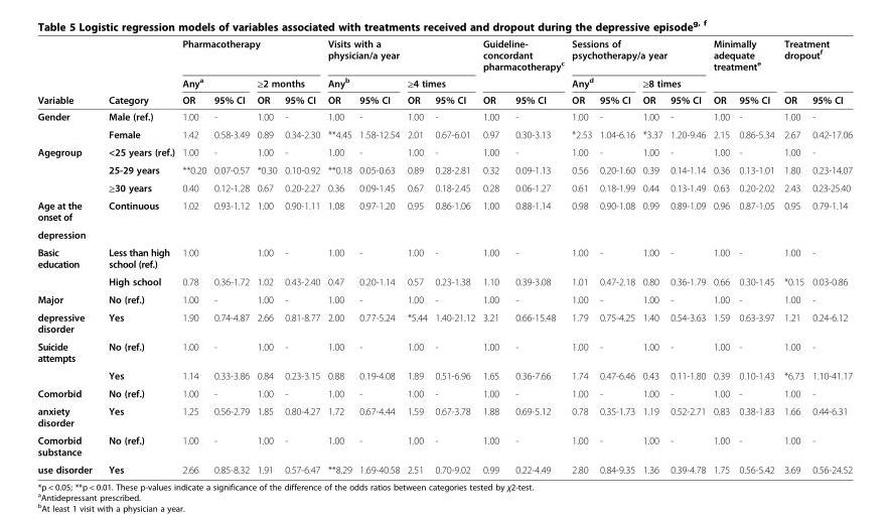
<table><thead><tr><td rowspan="3">Variable</td><td rowspan="3">Category</td><td colspan="4">Pharmacotherapy</td><td colspan="4">Visits with a physician/a year</td><td colspan="2">Guideline- concordant pharmacotherapy<sup>c</sup></td><td colspan="4">Sessions of psychotherapy/a year</td><td colspan="2">Minimally adequate treatment<sup>e</sup></td><td colspan="2">Treatment dropout<sup>f</sup></td></tr><tr><td colspan="2">Any<sup>a</sup></td><td colspan="2">≥2 months</td><td colspan="2">Any<sup>b</sup></td><td colspan="2">≥4 times</td><td rowspan="2">OR</td><td rowspan="2">95% CI</td><td colspan="2">Any<sup>d</sup></td><td colspan="2">≥8 times</td><td rowspan="2">OR</td><td rowspan="2">95% CI</td><td rowspan="2">OR</td><td rowspan="2">95% CI</td></tr><tr><td>OR</td><td>95% CI</td><td>OR</td><td>95% CI</td><td>OR</td><td>95% CI</td><td>OR</td><td>95% CI</td><td>OR</td><td>95% CI</td><td>OR</td><td>95% CI</td></tr></thead><tbody><tr><td rowspan="2">Gender</td><td>Male (ref.)</td><td>1.00</td><td>-</td><td>1.00</td><td>-</td><td>1.00</td><td>-</td><td>1.00</td><td>-</td><td>1.00</td><td>-</td><td>1.00</td><td>-</td><td>1.00</td><td>-</td><td>1.00</td><td>-</td><td>1.00</td><td>-</td></tr><tr><td>Female</td><td>1.42</td><td>0.58-3.49</td><td>0.89</td><td>0.34-2.30</td><td>**4.45</td><td>1.58-12.54</td><td>2.01</td><td>0.67-6.01</td><td>0.97</td><td>0.30-3.13</td><td>*2.53</td><td>1.04-6.16</td><td>*3.37</td><td>1.20-9.46</td><td>2.15</td><td>0.86-5.34</td><td>2.67</td><td>0.42-17.06</td></tr><tr><td rowspan="3">Agegroup</td><td>&lt;25 years (ref.)</td><td>1.00</td><td>-</td><td>1.00</td><td>-</td><td>1.00</td><td>-</td><td>1.00</td><td>-</td><td>1.00</td><td>-</td><td>1.00</td><td>-</td><td>1.00</td><td>-</td><td>1.00</td><td>-</td><td>1.00</td><td>-</td></tr><tr><td>25-29 years</td><td>**0.20</td><td>0.07-0.57</td><td>*0.30</td><td>0.10-0.92</td><td>**0.18</td><td>0.05-0.63</td><td>0.89</td><td>0.28-2.81</td><td>0.32</td><td>0.09-1.13</td><td>0.56</td><td>0.20-1.60</td><td>0.39</td><td>0.14-1.14</td><td>0.36</td><td>0.13-1.01</td><td>1.80</td><td>0.23-14.07</td></tr><tr><td>≥30 years</td><td>0.40</td><td>0.12-1.28</td><td>0.67</td><td>0.20-2.27</td><td>0.36</td><td>0.09-1.45</td><td>0.67</td><td>0.18-2.45</td><td>0.28</td><td>0.06-1.27</td><td>0.61</td><td>0.18-1.99</td><td>0.44</td><td>0.13-1.49</td><td>0.63</td><td>0.20-2.02</td><td>2.43</td><td>0.23-25.40</td></tr><tr><td>Age at the onset of</td><td>Continuous</td><td>1.02</td><td>0.93-1.12</td><td>1.00</td><td>0.90-1.11</td><td>1.08</td><td>0.97-1.20</td><td>0.95</td><td>0.86-1.06</td><td>1.00</td><td>0.88-1.14</td><td>0.98</td><td>0.90-1.08</td><td>0.99</td><td>0.89-1.09</td><td>0.96</td><td>0.87-1.05</td><td>0.95</td><td>0.79-1.14</td></tr><tr><td colspan="20">depression</td></tr><tr><td rowspan="2">Basic education</td><td>Less than high school (ref.)</td><td>1.00</td><td></td><td>1.00</td><td>-</td><td>1.00</td><td>-</td><td>1.00</td><td>-</td><td>1.00</td><td>-</td><td>1.00</td><td>-</td><td>1.00</td><td>-</td><td>1.00</td><td>-</td><td>1.00</td><td>-</td></tr><tr><td>High school</td><td>0.78</td><td>0.36-1.72</td><td>1.02</td><td>0.43-2.40</td><td>0.47</td><td>0.20-1.14</td><td>0.57</td><td>0.23-1.38</td><td>1.10</td><td>0.39-3.08</td><td>1.01</td><td>0.47-2.18</td><td>0.80</td><td>0.36-1.79</td><td>0.66</td><td>0.30-1.45</td><td>*0.15</td><td>0.03-0.86</td></tr><tr><td>Major</td><td>No (ref.)</td><td>1.00</td><td>-</td><td>1.00</td><td>-</td><td>1.00</td><td>-</td><td>1.00</td><td>-</td><td>1.00</td><td>-</td><td>1.00</td><td>-</td><td>1.00</td><td>-</td><td>1.00</td><td>-</td><td>1.00</td><td>-</td></tr><tr><td>depressive disorder</td><td>Yes</td><td>1.90</td><td>0.74-4.87</td><td>2.66</td><td>0.81-8.77</td><td>2.00</td><td>0.77-5.24</td><td>*5.44</td><td>1.40-21.12</td><td>3.21</td><td>0.66-15.48</td><td>1.79</td><td>0.75-4.25</td><td>1.40</td><td>0.54-3.63</td><td>1.59</td><td>0.63-3.97</td><td>1.21</td><td>0.24-6.12</td></tr><tr><td rowspan="2">Suicide attempts</td><td>No (ref.)</td><td>1.00</td><td>-</td><td>1.00</td><td>-</td><td>1.00</td><td>-</td><td>1.00</td><td>-</td><td>1.00</td><td>-</td><td>1.00</td><td>-</td><td>1.00</td><td>-</td><td>1.00</td><td>-</td><td>1.00</td><td>-</td></tr><tr><td>Yes</td><td>1.14</td><td>0.33-3.86</td><td>0.84</td><td>0.23-3.15</td><td>0.88</td><td>0.19-4.08</td><td>1.89</td><td>0.51-6.96</td><td>1.65</td><td>0.36-7.66</td><td>1.74</td><td>0.47-6.46</td><td>0.43</td><td>0.11-1.80</td><td>0.39</td><td>0.10-1.43</td><td>*6.73</td><td>1.10-41.17</td></tr><tr><td>Comorbid</td><td>No (ref.)</td><td>1.00</td><td>-</td><td>1.00</td><td>-</td><td>1.00</td><td>-</td><td>1.00</td><td>-</td><td>1.00</td><td>-</td><td>1.00</td><td>-</td><td>1.00</td><td>-</td><td>1.00</td><td>-</td><td>1.00</td><td>-</td></tr><tr><td>anxiety disorder</td><td>Yes</td><td>1.25</td><td>0.56-2.79</td><td>1.85</td><td>0.80-4.27</td><td>1.72</td><td>0.67-4.44</td><td>1.59</td><td>0.67-3.78</td><td>1.88</td><td>0.69-5.12</td><td>0.78</td><td>0.35-1.73</td><td>1.19</td><td>0.52-2.71</td><td>0.83</td><td>0.38-1.83</td><td>1.66</td><td>0.44-6.31</td></tr><tr><td>Comorbid substance</td><td>No (ref.)</td><td>1.00</td><td>-</td><td>1.00</td><td>-</td><td>1.00</td><td>-</td><td>1.00</td><td>-</td><td>1.00</td><td>-</td><td>1.00</td><td>-</td><td>1.00</td><td>-</td><td>1.00</td><td>-</td><td>1.00</td><td>-</td></tr><tr><td>use disorder</td><td>Yes</td><td>2.66</td><td>0.85-8.32</td><td>1.91</td><td>0.57-6.47</td><td>**8.29</td><td>1.69-40.58</td><td>2.51</td><td>0.70-9.02</td><td>0.99</td><td>0.22-4.49</td><td>2.80</td><td>0.84-9.35</td><td>1.36</td><td>0.39-4.78</td><td>1.75</td><td>0.56-5.42</td><td>3.69</td><td>0.56-24.52</td></tr></tbody></table>